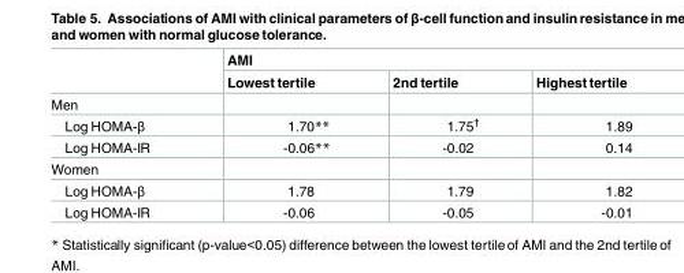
<table><thead><tr><td rowspan="2"></td><td colspan="3">AMI</td></tr><tr><td>Lowest tertile</td><td>2nd tertile</td><td>Highest tertile</td></tr></thead><tbody><tr><td colspan="4">Men</td></tr><tr><td>Log HOMA-β</td><td>1.70**</td><td>1.75<sup>†</sup></td><td>1.89</td></tr><tr><td>Log HOMA-IR</td><td>-0.06**</td><td>-0.02</td><td>0.14</td></tr><tr><td colspan="4">Women</td></tr><tr><td>Log HOMA-β</td><td>1.78</td><td>1.79</td><td>1.82</td></tr><tr><td>Log HOMA-IR</td><td>-0.06</td><td>-0.05</td><td>-0.01</td></tr></tbody></table>